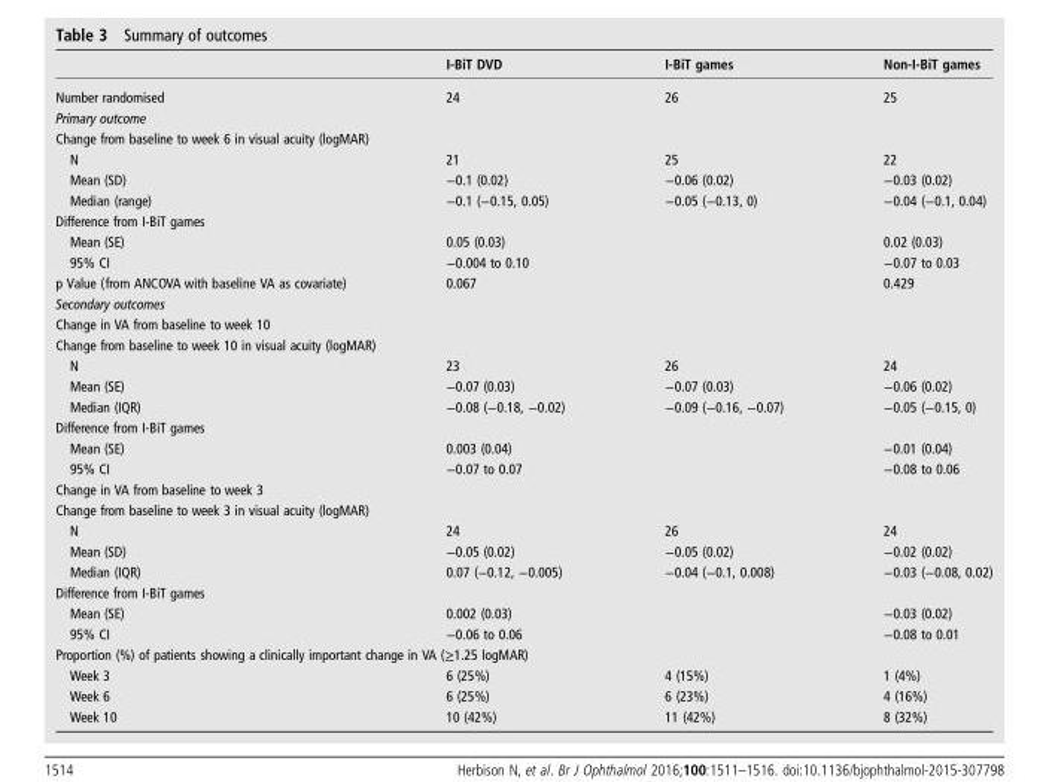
<table><thead><tr><td></td><td>I-BiT DVD</td><td>I-BiT games</td><td>Non-I-BiT games</td></tr></thead><tbody><tr><td>Number randomised</td><td>24</td><td>26</td><td>25</td></tr><tr><td colspan="4">Primary outcome</td></tr><tr><td colspan="4">Change from baseline to week 6 in visual acuity (logMAR)</td></tr><tr><td>N</td><td>21</td><td>25</td><td>22</td></tr><tr><td>Mean (SD)</td><td>−0.1 (0.02)</td><td>−0.06 (0.02)</td><td>−0.03 (0.02)</td></tr><tr><td>Median (range)</td><td>−0.1 (−0.15, 0.05)</td><td>−0.05 (−0.13, 0)</td><td>−0.04 (−0.1, 0.04)</td></tr><tr><td colspan="4">Difference from I-BiT games</td></tr><tr><td>Mean (SE)</td><td>0.05 (0.03)</td><td></td><td>0.02 (0.03)</td></tr><tr><td>95% CI</td><td>−0.004 to 0.10</td><td></td><td>−0.07 to 0.03</td></tr><tr><td>p Value (from ANCOVA with baseline VA as covariate)</td><td>0.067</td><td></td><td>0.429</td></tr><tr><td colspan="4">Secondary outcomes</td></tr><tr><td colspan="4">Change in VA from baseline to week 10</td></tr><tr><td colspan="4">Change from baseline to week 10 in visual acuity (logMAR)</td></tr><tr><td>N</td><td>23</td><td>26</td><td>24</td></tr><tr><td>Mean (SE)</td><td>−0.07 (0.03)</td><td>−0.07 (0.03)</td><td>−0.06 (0.02)</td></tr><tr><td>Median (IQR)</td><td>−0.08 (−0.18, −0.02)</td><td>−0.09 (−0.16, −0.07)</td><td>−0.05 (−0.15, 0)</td></tr><tr><td colspan="4">Difference from I-BiT games</td></tr><tr><td>Mean (SE)</td><td>0.003 (0.04)</td><td></td><td>−0.01 (0.04)</td></tr><tr><td>95% CI</td><td>−0.07 to 0.07</td><td></td><td>−0.08 to 0.06</td></tr><tr><td colspan="4">Change in VA from baseline to week 3</td></tr><tr><td colspan="4">Change from baseline to week 3 in visual acuity (logMAR)</td></tr><tr><td>N</td><td>24</td><td>26</td><td>24</td></tr><tr><td>Mean (SD)</td><td>−0.05 (0.02)</td><td>−0.05 (0.02)</td><td>−0.02 (0.02)</td></tr><tr><td>Median (IQR)</td><td>0.07 (−0.12, −0.005)</td><td>−0.04 (−0.1, 0.008)</td><td>−0.03 (−0.08, 0.02)</td></tr><tr><td colspan="4">Difference from I-BiT games</td></tr><tr><td>Mean (SE)</td><td>0.002 (0.03)</td><td></td><td>−0.03 (0.02)</td></tr><tr><td>95% CI</td><td>−0.06 to 0.06</td><td></td><td>−0.08 to 0.01</td></tr><tr><td colspan="4">Proportion (%) of patients showing a clinically important change in VA (≥1.25 logMAR)</td></tr><tr><td>Week 3</td><td>6 (25%)</td><td>4 (15%)</td><td>1 (4%)</td></tr><tr><td>Week 6</td><td>6 (25%)</td><td>6 (23%)</td><td>4 (16%)</td></tr><tr><td>Week 10</td><td>10 (42%)</td><td>11 (42%)</td><td>8 (32%)</td></tr></tbody></table>